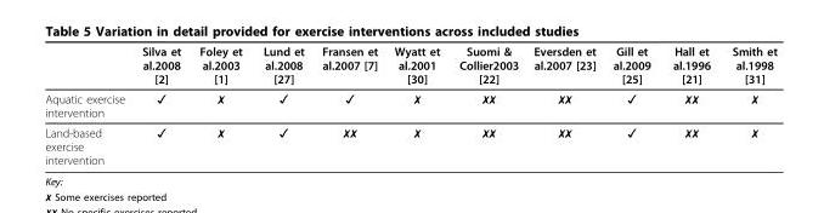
<table><thead><tr><td></td><td>Silva et al.2008 [2]</td><td>Foley et al.2003 [1]</td><td>Lund et al.2008 [27]</td><td>Fransen et al.2007 [7]</td><td>Wyatt et al.2001 [30]</td><td>Suomi &amp; Collier2003 [22]</td><td>Eversden et al.2007 [23]</td><td>Gill et al.2009 [25]</td><td>Hall et al.1996 [21]</td><td>Smith et al.1998 [31]</td></tr></thead><tbody><tr><td>Aquatic exercise intervention</td><td>✓</td><td>✗</td><td>✓</td><td>✓</td><td>✗</td><td>✗✗</td><td>✗✗</td><td>✓</td><td>✗✗</td><td>✗</td></tr><tr><td>Land-based exercise intervention</td><td>✓</td><td>✗</td><td>✓</td><td>✗✗</td><td>✗</td><td>✗✗</td><td>✗✗</td><td>✓</td><td>✗✗</td><td>✗</td></tr></tbody></table>